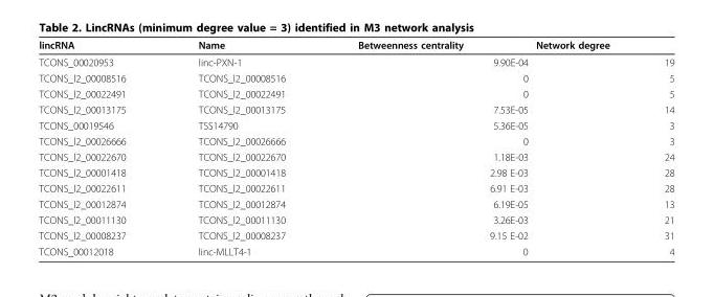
<table><thead><tr><td>lincRNA</td><td>Name</td><td>Betweenness centrality</td><td>Network degree</td></tr></thead><tbody><tr><td>TCONS_00020953</td><td>linc-PXN-1</td><td>9.90E-04</td><td>19</td></tr><tr><td>TCONS_l2_00008516</td><td>TCONS_l2_00008516</td><td>0</td><td>5</td></tr><tr><td>TCONS_l2_00022491</td><td>TCONS_l2_00022491</td><td>0</td><td>5</td></tr><tr><td>TCONS_l2_00013175</td><td>TCONS_l2_00013175</td><td>7.53E-05</td><td>14</td></tr><tr><td>TCONS_00019546</td><td>TSS14790</td><td>5.36E-05</td><td>3</td></tr><tr><td>TCONS_l2_00026666</td><td>TCONS_l2_00026666</td><td>0</td><td>3</td></tr><tr><td>TCONS_l2_00022670</td><td>TCONS_l2_00022670</td><td>1.18E-03</td><td>24</td></tr><tr><td>TCONS_l2_00001418</td><td>TCONS_l2_00001418</td><td>2.98 E-03</td><td>28</td></tr><tr><td>TCONS_l2_00022611</td><td>TCONS_l2_00022611</td><td>6.91 E-03</td><td>28</td></tr><tr><td>TCONS_l2_00012874</td><td>TCONS_l2_00012874</td><td>6.19E-05</td><td>13</td></tr><tr><td>TCONS_l2_00011130</td><td>TCONS_l2_00011130</td><td>3.26E-03</td><td>21</td></tr><tr><td>TCONS_l2_00008237</td><td>TCONS_l2_00008237</td><td>9.15 E-02</td><td>31</td></tr><tr><td>TCONS_00012018</td><td>linc-MLLT4-1</td><td>0</td><td>4</td></tr></tbody></table>